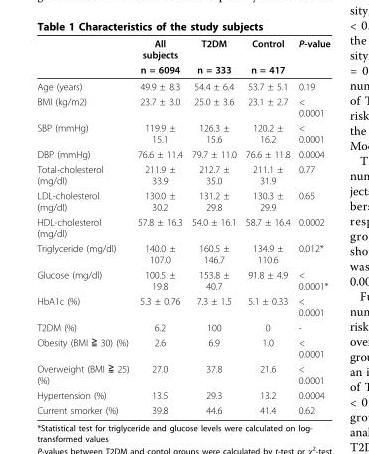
<table><thead><tr><td rowspan="2"></td><td rowspan="2">All subjects n = 6094</td><td rowspan="2">T2DM n = 333</td><td rowspan="2">Control n = 417</td><td rowspan="2">P-value</td></tr><tr></tr></thead><tbody><tr><td>Age (years)</td><td>49.9 ± 8.3</td><td>54.4 ± 6.4</td><td>53.7 ± 5.1</td><td>0.19</td></tr><tr><td>BMI (kg/m2)</td><td>23.7 ± 3.0</td><td>25.0 ± 3.6</td><td>23.1 ± 2.7</td><td>&lt; 0.0001</td></tr><tr><td>SBP (mmHg)</td><td>119.9 ± 15.1</td><td>126.3 ± 15.6</td><td>120.2 ± 16.2</td><td>&lt; 0.0001</td></tr><tr><td>DBP (mmHg)</td><td>76.6 ± 11.4</td><td>79.7 ± 11.0</td><td>76.6 ± 11.8</td><td>0.0004</td></tr><tr><td>Total-cholesterol (mg/dl)</td><td>211.9 ± 33.9</td><td>212.7 ± 35.0</td><td>211.1 ± 31.9</td><td>0.77</td></tr><tr><td>LDL-cholesterol (mg/dl)</td><td>130.0 ± 30.2</td><td>131.2 ± 29.8</td><td>130.3 ± 29.9</td><td>0.65</td></tr><tr><td>HDL-cholesterol (mg/dl)</td><td>57.8 ± 16.3</td><td>54.0 ± 16.1</td><td>58.7 ± 16.4</td><td>0.0002</td></tr><tr><td>Triglyceride (mg/dl)</td><td>140.0 ± 107.0</td><td>160.5 ± 146.7</td><td>134.9 ± 110.6</td><td>0.012*</td></tr><tr><td>Glucose (mg/dl)</td><td>100.5 ± 19.8</td><td>153.8 ± 40.7</td><td>91.8 ± 4.9</td><td>&lt; 0.0001*</td></tr><tr><td>HbA1c (%)</td><td>5.3 ± 0.76</td><td>7.3 ± 1.5</td><td>5.1 ± 0.33</td><td>&lt; 0.0001</td></tr><tr><td>T2DM (%)</td><td>6.2</td><td>100</td><td>0</td><td>-</td></tr><tr><td>Obesity (BMI ≧ 30) (%)</td><td>2.6</td><td>6.9</td><td>1.0</td><td>&lt; 0.0001</td></tr><tr><td>Overweight (BMI ≧ 25) (%)</td><td>27.0</td><td>37.8</td><td>21.6</td><td>&lt; 0.0001</td></tr><tr><td>Hypertension (%)</td><td>13.5</td><td>29.3</td><td>13.2</td><td>0.0004</td></tr><tr><td>Current smorker (%)</td><td>39.8</td><td>44.6</td><td>41.4</td><td>0.62</td></tr></tbody></table>